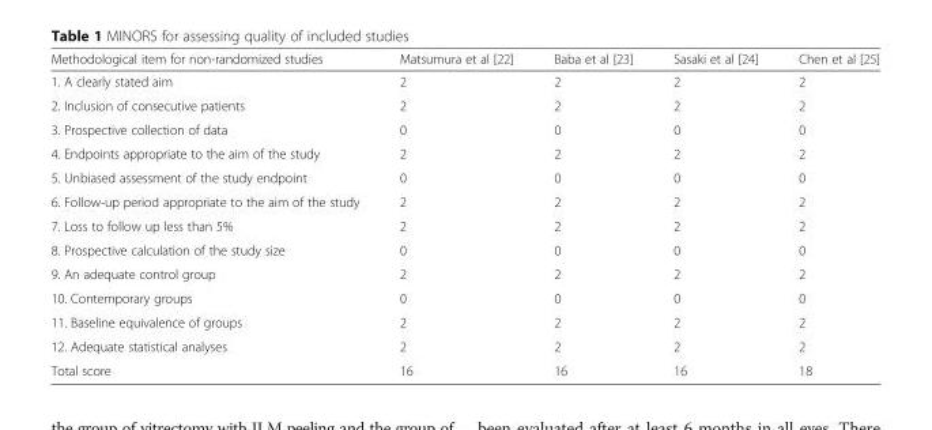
<table><thead><tr><td>Methodological item for non-randomized studies</td><td>Matsumura et al [22]</td><td>Baba et al [23]</td><td>Sasaki et al [24]</td><td>Chen et al [25]</td></tr></thead><tbody><tr><td>1. A clearly stated aim</td><td>2</td><td>2</td><td>2</td><td>2</td></tr><tr><td>2. Inclusion of consecutive patients</td><td>2</td><td>2</td><td>2</td><td>2</td></tr><tr><td>3. Prospective collection of data</td><td>0</td><td>0</td><td>0</td><td>0</td></tr><tr><td>4. Endpoints appropriate to the aim of the study</td><td>2</td><td>2</td><td>2</td><td>2</td></tr><tr><td>5. Unbiased assessment of the study endpoint</td><td>0</td><td>0</td><td>0</td><td>0</td></tr><tr><td>6. Follow-up period appropriate to the aim of the study</td><td>2</td><td>2</td><td>2</td><td>2</td></tr><tr><td>7. Loss to follow up less than 5%</td><td>2</td><td>2</td><td>2</td><td>2</td></tr><tr><td>8. Prospective calculation of the study size</td><td>0</td><td>0</td><td>0</td><td>0</td></tr><tr><td>9. An adequate control group</td><td>2</td><td>2</td><td>2</td><td>2</td></tr><tr><td>10. Contemporary groups</td><td>0</td><td>0</td><td>0</td><td>0</td></tr><tr><td>11. Baseline equivalence of groups</td><td>2</td><td>2</td><td>2</td><td>2</td></tr><tr><td>12. Adequate statistical analyses</td><td>2</td><td>2</td><td>2</td><td>2</td></tr><tr><td>Total score</td><td>16</td><td>16</td><td>16</td><td>18</td></tr></tbody></table>